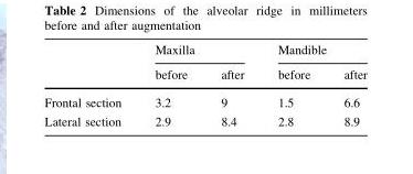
<table><thead><tr><td rowspan="2"></td><td colspan="2">Maxilla</td><td colspan="2">Mandible</td></tr><tr><td>before</td><td>after</td><td>before</td><td>after</td></tr></thead><tbody><tr><td>Frontal section</td><td>3.2</td><td>9</td><td>1.5</td><td>6.6</td></tr><tr><td>Lateral section</td><td>2.9</td><td>8.4</td><td>2.8</td><td>8.9</td></tr></tbody></table>